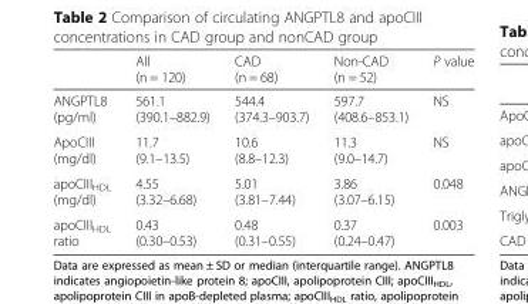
<table><thead><tr><td></td><td>All (n = 120)</td><td>CAD (n = 68)</td><td>Non-CAD (n = 52)</td><td>P value</td></tr></thead><tbody><tr><td>ANGPTL8 (pg/ml)</td><td>561.1 (390.1–882.9)</td><td>544.4 (374.3–903.7)</td><td>597.7 (408.6–853.1)</td><td>NS</td></tr><tr><td>ApoCIII (mg/dl)</td><td>11.7 (9.1–13.5)</td><td>10.6 (8.8–12.3)</td><td>11.3 (9.0–14.7)</td><td>NS</td></tr><tr><td>apoCIII<sub>HDL</sub> (mg/dl)</td><td>4.55 (3.32–6.68)</td><td>5.01 (3.81–7.44)</td><td>3.86 (3.07–6.15)</td><td>0.048</td></tr><tr><td>apoCIII<sub>HDL</sub> ratio</td><td>0.43 (0.30–0.53)</td><td>0.48 (0.31–0.55)</td><td>0.37 (0.24–0.47)</td><td>0.003</td></tr></tbody></table>